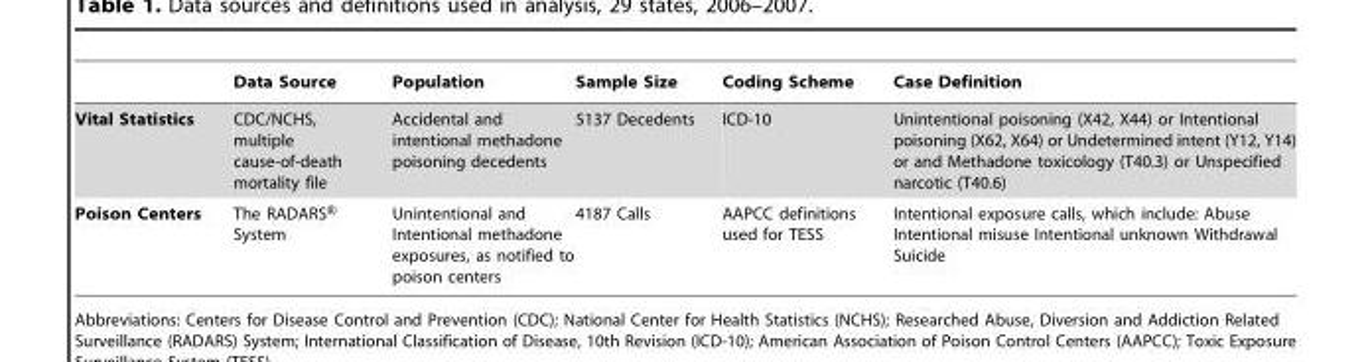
<table><thead><tr><td></td><td>Data Source</td><td>Population</td><td>Sample Size</td><td>Coding Scheme</td><td>Case Definition</td></tr></thead><tbody><tr><td>Vital Statistics</td><td>CDC/NCHS, multiple cause-of-death mortality file</td><td>Accidental and intentional methadone poisoning decedents</td><td>5137 Decedents</td><td>ICD-10</td><td>Unintentional poisoning (X42, X44) or Intentional poisoning (X62, X64) or Undetermined intent (Y12, Y14) or and Methadone toxicology (T40.3) or Unspecified narcotic (T40.6)</td></tr><tr><td>Poison Centers</td><td>The RADARS® System</td><td>Unintentional and Intentional methadone exposures, as notified to poison centers</td><td>4187 Calls</td><td>AAPCC definitions used for TESS</td><td>Intentional exposure calls, which include: Abuse Intentional misuse Intentional unknown Withdrawal Suicide</td></tr></tbody></table>